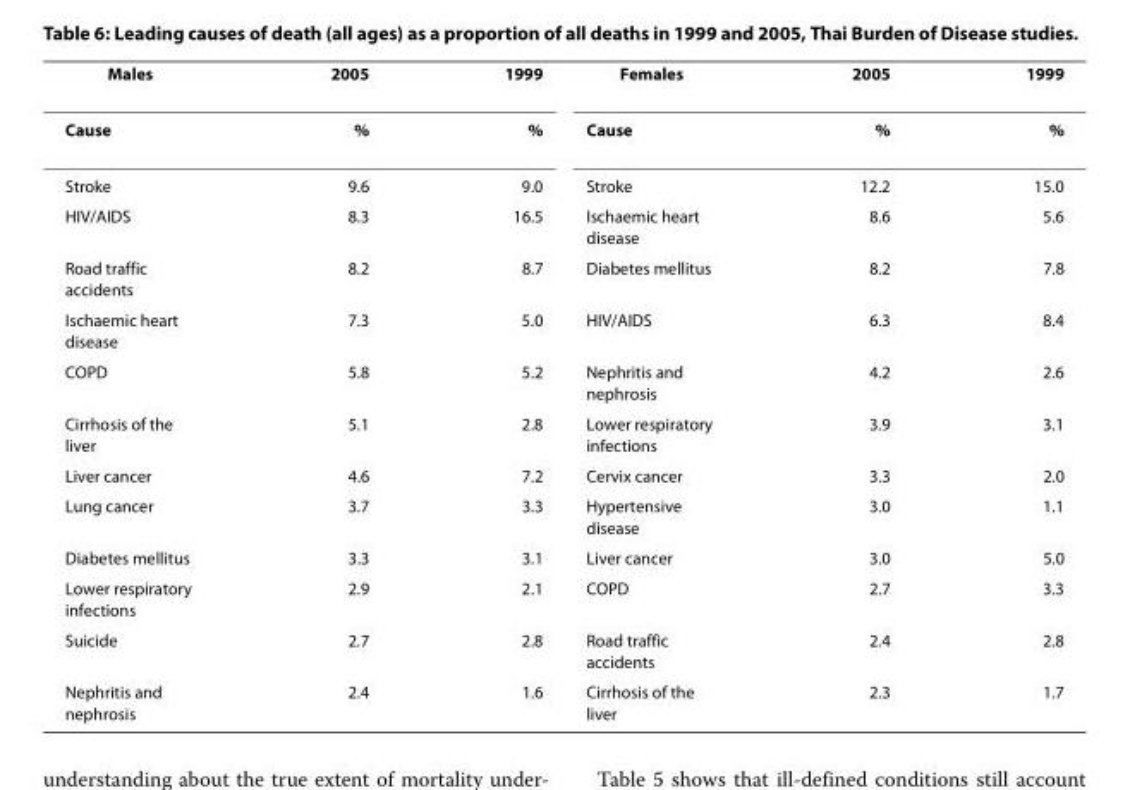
<table><tbody><tr><td>Males</td><td>2005</td><td>1999</td><td>Females</td><td>2005</td><td>1999</td></tr><tr><td>Cause</td><td>%</td><td>%</td><td>Cause</td><td>%</td><td>%</td></tr><tr><td>Stroke</td><td>9.6</td><td>9.0</td><td>Stroke</td><td>12.2</td><td>15.0</td></tr><tr><td>HIV/AIDS</td><td>8.3</td><td>16.5</td><td>Ischaemic heart disease</td><td>8.6</td><td>5.6</td></tr><tr><td>Road traffic accidents</td><td>8.2</td><td>8.7</td><td>Diabetes mellitus</td><td>8.2</td><td>7.8</td></tr><tr><td>Ischaemic heart disease</td><td>7.3</td><td>5.0</td><td>HIV/AIDS</td><td>6.3</td><td>8.4</td></tr><tr><td>COPD</td><td>5.8</td><td>5.2</td><td>Nephritis and nephrosis</td><td>4.2</td><td>2.6</td></tr><tr><td>Cirrhosis of the liver</td><td>5.1</td><td>2.8</td><td>Lower respiratory infections</td><td>3.9</td><td>3.1</td></tr><tr><td>Liver cancer</td><td>4.6</td><td>7.2</td><td>Cervix cancer</td><td>3.3</td><td>2.0</td></tr><tr><td>Lung cancer</td><td>3.7</td><td>3.3</td><td>Hypertensive disease</td><td>3.0</td><td>1.1</td></tr><tr><td>Diabetes mellitus</td><td>3.3</td><td>3.1</td><td>Liver cancer</td><td>3.0</td><td>5.0</td></tr><tr><td>Lower respiratory infections</td><td>2.9</td><td>2.1</td><td>COPD</td><td>2.7</td><td>3.3</td></tr><tr><td>Suicide</td><td>2.7</td><td>2.8</td><td>Road traffic accidents</td><td>2.4</td><td>2.8</td></tr><tr><td>Nephritis and nephrosis</td><td>2.4</td><td>1.6</td><td>Cirrhosis of the liver</td><td>2.3</td><td>1.7</td></tr></tbody></table>